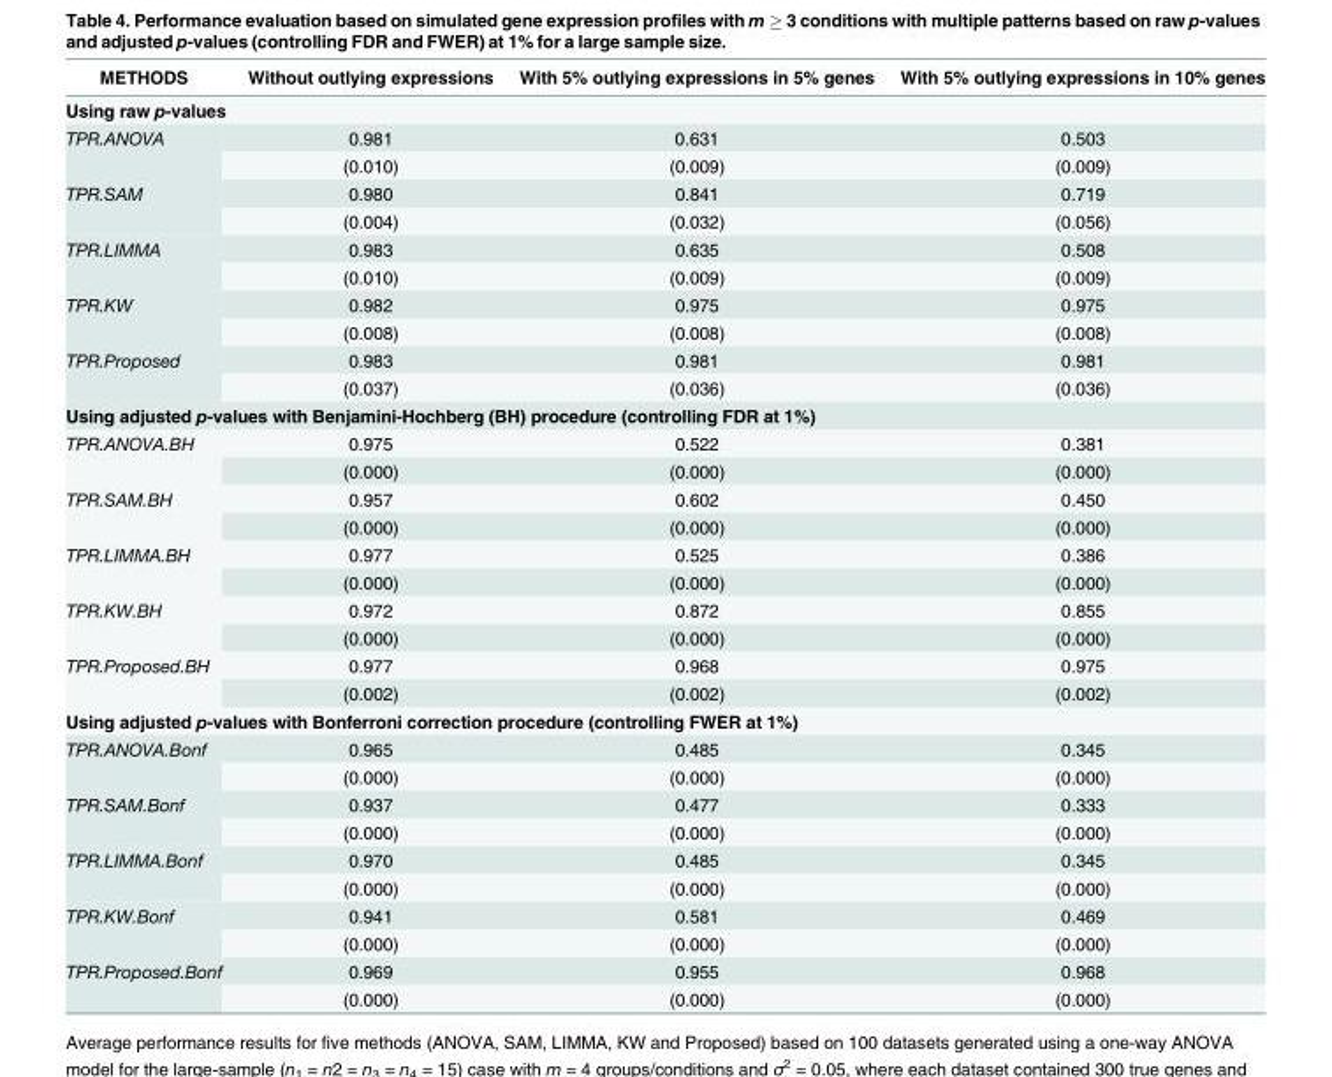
<table><thead><tr><td>METHODS</td><td>Without outlying expressions</td><td>With 5% outlying expressions in 5% genes</td><td>With 5% outlying expressions in 10% genes</td></tr></thead><tbody><tr><td colspan="4">Using raw p-values</td></tr><tr><td rowspan="2">TPR.ANOVA</td><td>0.981</td><td>0.631</td><td>0.503</td></tr><tr><td>(0.010)</td><td>(0.009)</td><td>(0.009)</td></tr><tr><td rowspan="2">TPR.SAM</td><td>0.980</td><td>0.841</td><td>0.719</td></tr><tr><td>(0.004)</td><td>(0.032)</td><td>(0.056)</td></tr><tr><td rowspan="2">TPR.LIMMA</td><td>0.983</td><td>0.635</td><td>0.508</td></tr><tr><td>(0.010)</td><td>(0.009)</td><td>(0.009)</td></tr><tr><td rowspan="2">TPR.KW</td><td>0.982</td><td>0.975</td><td>0.975</td></tr><tr><td>(0.008)</td><td>(0.008)</td><td>(0.008)</td></tr><tr><td rowspan="2">TPR.Proposed</td><td>0.983</td><td>0.981</td><td>0.981</td></tr><tr><td>(0.037)</td><td>(0.036)</td><td>(0.036)</td></tr><tr><td colspan="4">Using adjusted p-values with Benjamini-Hochberg (BH) procedure (controlling FDR at 1%)</td></tr><tr><td rowspan="2">TPR.ANOVA.BH</td><td>0.975</td><td>0.522</td><td>0.381</td></tr><tr><td>(0.000)</td><td>(0.000)</td><td>(0.000)</td></tr><tr><td rowspan="2">TPR.SAM.BH</td><td>0.957</td><td>0.602</td><td>0.450</td></tr><tr><td>(0.000)</td><td>(0.000)</td><td>(0.000)</td></tr><tr><td rowspan="2">TPR.LIMMA.BH</td><td>0.977</td><td>0.525</td><td>0.386</td></tr><tr><td>(0.000)</td><td>(0.000)</td><td>(0.000)</td></tr><tr><td rowspan="2">TPR.KW.BH</td><td>0.972</td><td>0.872</td><td>0.855</td></tr><tr><td>(0.000)</td><td>(0.000)</td><td>(0.000)</td></tr><tr><td rowspan="2">TPR.Proposed.BH</td><td>0.977</td><td>0.968</td><td>0.975</td></tr><tr><td>(0.002)</td><td>(0.002)</td><td>(0.002)</td></tr><tr><td colspan="4">Using adjusted p-values with Bonferroni correction procedure (controlling FWER at 1%)</td></tr><tr><td rowspan="2">TPR.ANOVA.Bonf</td><td>0.965</td><td>0.485</td><td>0.345</td></tr><tr><td>(0.000)</td><td>(0.000)</td><td>(0.000)</td></tr><tr><td rowspan="2">TPR.SAM.Bonf</td><td>0.937</td><td>0.477</td><td>0.333</td></tr><tr><td>(0.000)</td><td>(0.000)</td><td>(0.000)</td></tr><tr><td rowspan="2">TPR.LIMMA.Bonf</td><td>0.970</td><td>0.485</td><td>0.345</td></tr><tr><td>(0.000)</td><td>(0.000)</td><td>(0.000)</td></tr><tr><td rowspan="2">TPR.KW.Bonf</td><td>0.941</td><td>0.581</td><td>0.469</td></tr><tr><td>(0.000)</td><td>(0.000)</td><td>(0.000)</td></tr><tr><td rowspan="2">TPR.Proposed.Bonf</td><td>0.969</td><td>0.955</td><td>0.968</td></tr><tr><td>(0.000)</td><td>(0.000)</td><td>(0.000)</td></tr></tbody></table>